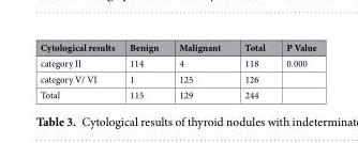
<table><thead><tr><td>Cytological results</td><td>Benign</td><td>Malignant</td><td>Total</td><td>P Value</td></tr></thead><tbody><tr><td>category II</td><td>114</td><td>4</td><td>118</td><td>0.000</td></tr><tr><td>category V/ VI</td><td>1</td><td>125</td><td>126</td><td></td></tr><tr><td>Total</td><td>115</td><td>129</td><td>244</td><td></td></tr></tbody></table>